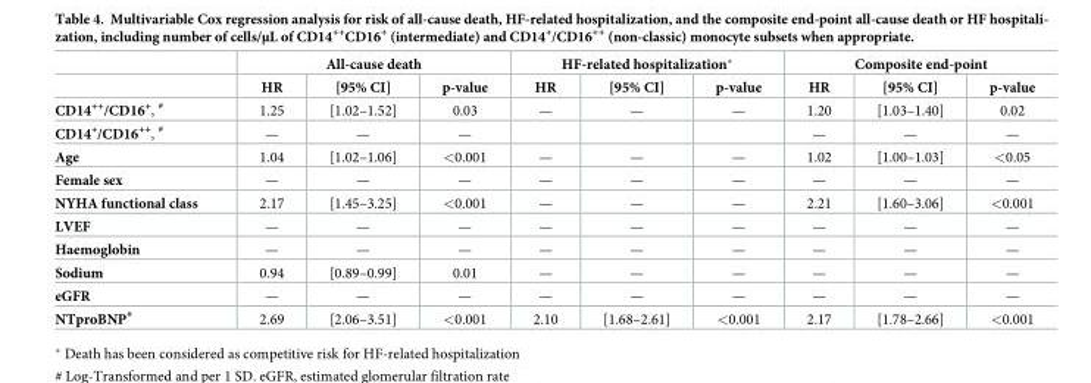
<table><thead><tr><td rowspan="2"></td><td colspan="3">All-cause death</td><td colspan="3">HF-related hospitalization*</td><td colspan="3">Composite end-point</td></tr><tr><td>HR</td><td>[95% CI]</td><td>p-value</td><td>HR</td><td>[95% CI]</td><td>p-value</td><td>HR</td><td>[95% CI]</td><td>p-value</td></tr></thead><tbody><tr><td>CD14<sup>++</sup>/CD16<sup>+</sup>, <sup>#</sup></td><td>1.25</td><td>[1.02–1.52]</td><td>0.03</td><td>—</td><td>—</td><td>—</td><td>1.20</td><td>[1.03–1.40]</td><td>0.02</td></tr><tr><td>CD14<sup>+</sup>/CD16<sup>++</sup>, <sup>#</sup></td><td>—</td><td>—</td><td>—</td><td></td><td></td><td></td><td>—</td><td>—</td><td>—</td></tr><tr><td>Age</td><td>1.04</td><td>[1.02–1.06]</td><td>&lt;0.001</td><td>—</td><td>—</td><td>—</td><td>1.02</td><td>[1.00–1.03]</td><td>&lt;0.05</td></tr><tr><td>Female sex</td><td>—</td><td>—</td><td>—</td><td>—</td><td>—</td><td>—</td><td>—</td><td>—</td><td>—</td></tr><tr><td>NYHA functional class</td><td>2.17</td><td>[1.45–3.25]</td><td>&lt;0.001</td><td>—</td><td>—</td><td>—</td><td>2.21</td><td>[1.60–3.06]</td><td>&lt;0.001</td></tr><tr><td>LVEF</td><td>—</td><td>—</td><td>—</td><td>—</td><td>—</td><td>—</td><td>—</td><td>—</td><td>—</td></tr><tr><td>Haemoglobin</td><td>—</td><td>—</td><td>—</td><td>—</td><td>—</td><td>—</td><td>—</td><td>—</td><td>—</td></tr><tr><td>Sodium</td><td>0.94</td><td>[0.89–0.99]</td><td>0.01</td><td>—</td><td>—</td><td>—</td><td>—</td><td>—</td><td>—</td></tr><tr><td>eGFR</td><td>—</td><td>—</td><td>—</td><td>—</td><td>—</td><td>—</td><td>—</td><td>—</td><td>—</td></tr><tr><td>NTproBNP<sup>#</sup></td><td>2.69</td><td>[2.06–3.51]</td><td>&lt;0.001</td><td>2.10</td><td>[1.68–2.61]</td><td>&lt;0.001</td><td>2.17</td><td>[1.78–2.66]</td><td>&lt;0.001</td></tr></tbody></table>